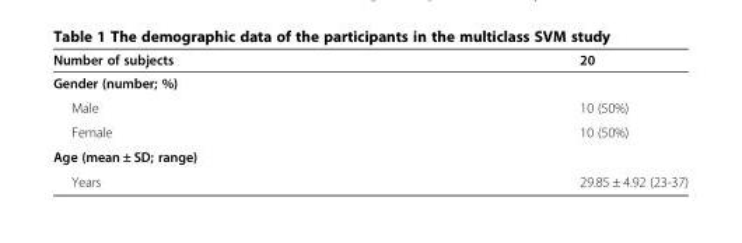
<table><thead><tr><td>Number of subjects</td><td>20</td></tr></thead><tbody><tr><td colspan="2">Gender (number; %)</td></tr><tr><td>Male</td><td>10 (50%)</td></tr><tr><td>Female</td><td>10 (50%)</td></tr><tr><td colspan="2">Age (mean ± SD; range)</td></tr><tr><td>Years</td><td>29.85 ± 4.92 (23-37)</td></tr></tbody></table>